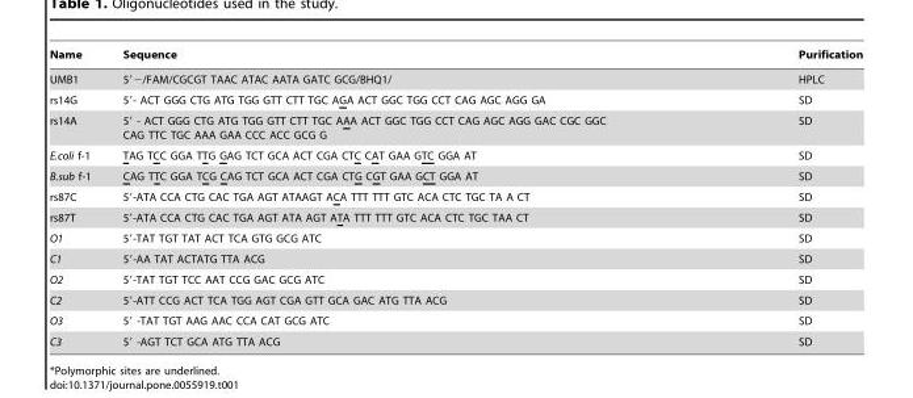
<table><thead><tr><td>Name</td><td>Sequence</td><td>Purification</td></tr></thead><tbody><tr><td>UMB1</td><td>5′−/FAM/CGCGT TAAC ATAC AATA GATC GCG/BHQ1/</td><td>HPLC</td></tr><tr><td>rs14G</td><td>5′- ACT GGG CTG ATG TGG GTT CTT TGC AGA ACT GGC TGG CCT CAG AGC AGG GA</td><td>SD</td></tr><tr><td>rs14A</td><td>5′ - ACT GGG CTG ATG TGG GTT CTT TGC AAA ACT GGC TGG CCT CAG AGC AGG GAC CGC GGC CAG TTC TGC AAA GAA CCC ACC GCG G</td><td>SD</td></tr><tr><td>E.coli f-1</td><td>TAG TCC GGA TTG GAG TCT GCA ACT CGA CTC CAT GAA GTC GGA AT</td><td>SD</td></tr><tr><td>B.sub f-1</td><td>CAG TTC GGA TCG CAG TCT GCA ACT CGA CTG CGT GAA GCT GGA AT</td><td>SD</td></tr><tr><td>rs87C</td><td>5′-ATA CCA CTG CAC TGA AGT ATAAGT ACA TTT TTT GTC ACA CTC TGC TA A CT</td><td>SD</td></tr><tr><td>rs87T</td><td>5′-ATA CCA CTG CAC TGA AGT ATA AGT ATA TTT TTT GTC ACA CTC TGC TAA CT</td><td>SD</td></tr><tr><td>O1</td><td>5′-TAT TGT TAT ACT TCA GTG GCG ATC</td><td>SD</td></tr><tr><td>C1</td><td>5′-AA TAT ACTATG TTA ACG</td><td>SD</td></tr><tr><td>O2</td><td>5′-TAT TGT TCC AAT CCG GAC GCG ATC</td><td>SD</td></tr><tr><td>C2</td><td>5′-ATT CCG ACT TCA TGG AGT CGA GTT GCA GAC ATG TTA ACG</td><td>SD</td></tr><tr><td>O3</td><td>5′ -TAT TGT AAG AAC CCA CAT GCG ATC</td><td>SD</td></tr><tr><td>C3</td><td>5′ -AGT TCT GCA ATG TTA ACG</td><td>SD</td></tr></tbody></table>